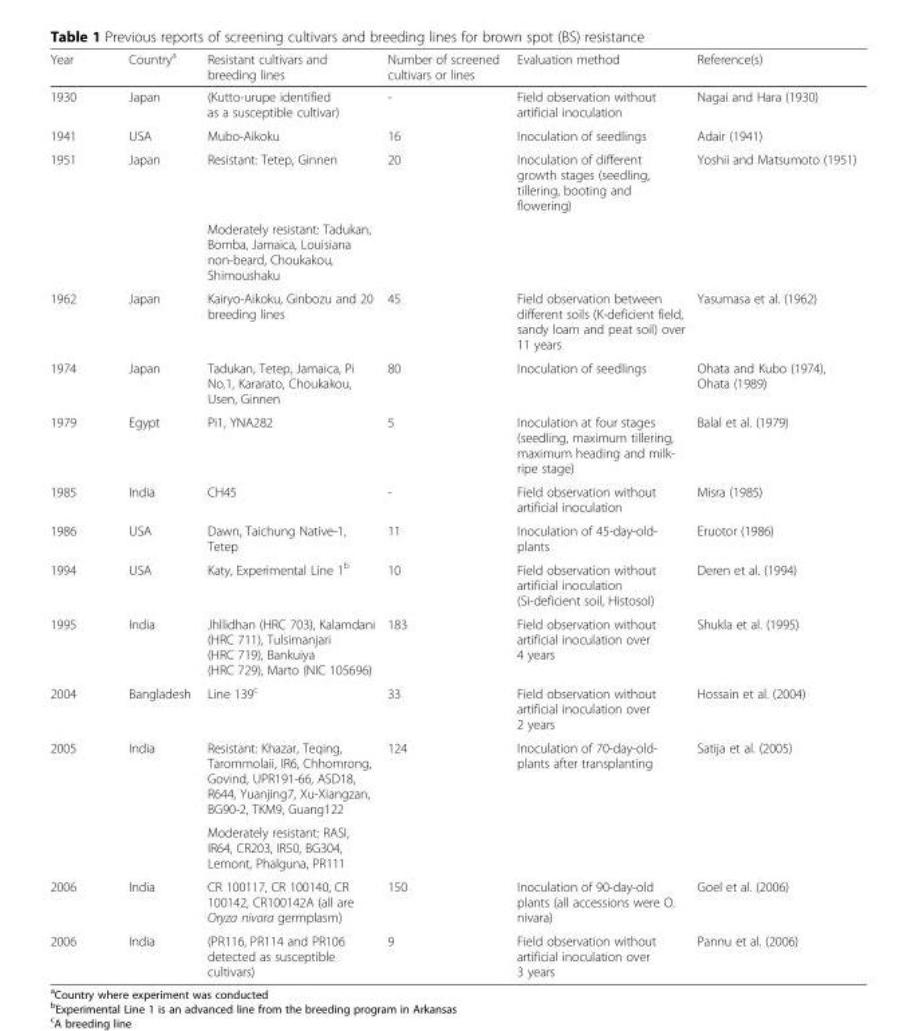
<table><thead><tr><td>Year</td><td>Country<sup>a</sup></td><td>Resistant cultivars and breeding lines</td><td>Number of screened cultivars or lines</td><td>Evaluation method</td><td>Reference(s)</td></tr></thead><tbody><tr><td>1930</td><td>Japan</td><td>(Kutto-urupe identified as a susceptible cultivar)</td><td>-</td><td>Field observation without artificial inoculation</td><td>Nagai and Hara (1930)</td></tr><tr><td>1941</td><td>USA</td><td>Mubo-Aikoku</td><td>16</td><td>Inoculation of seedlings</td><td>Adair (1941)</td></tr><tr><td rowspan="2">1951</td><td>Japan</td><td>Resistant: Tetep, Ginnen</td><td>20</td><td>Inoculation of different growth stages (seedling, tillering, booting and flowering)</td><td>Yoshii and Matsumoto (1951)</td></tr><tr><td></td><td>Moderately resistant: Tadukan, Bomba, Jamaica, Louisiana non-beard, Choukakou, Shimoushaku</td><td></td><td></td><td></td></tr><tr><td>1962</td><td>Japan</td><td>Kairyo-Aikoku, Ginbozu and 20 breeding lines</td><td>45</td><td>Field observation between different soils (K-deficient field, sandy loam and peat soil) over 11 years</td><td>Yasumasa et al. (1962)</td></tr><tr><td>1974</td><td>Japan</td><td>Tadukan, Tetep, Jamaica, Pi No.1, Kararato, Choukakou, Usen, Ginnen</td><td>80</td><td>Inoculation of seedlings</td><td>Ohata and Kubo (1974), Ohata (1989)</td></tr><tr><td>1979</td><td>Egypt</td><td>Pi1, YNA282</td><td>5</td><td>Inoculation at four stages (seedling, maximum tillering, maximum heading and milk- ripe stage)</td><td>Balal et al. (1979)</td></tr><tr><td>1985</td><td>India</td><td>CH45</td><td>-</td><td>Field observation without artificial inoculation</td><td>Misra (1985)</td></tr><tr><td>1986</td><td>USA</td><td>Dawn, Taichung Native-1, Tetep</td><td>11</td><td>Inoculation of 45-day-old- plants</td><td>Eruotor (1986)</td></tr><tr><td>1994</td><td>USA</td><td>Katy, Experimental Line 1<sup>b</sup></td><td>10</td><td>Field observation without artificial inoculation (Si-deficient soil, Histosol)</td><td>Deren et al. (1994)</td></tr><tr><td>1995</td><td>India</td><td>Jhllidhan (HRC 703), Kalamdani (HRC 711), Tulsimanjari (HRC 719), Bankuiya (HRC 729), Marto (NIC 105696)</td><td>183</td><td>Field observation without artificial inoculation over 4 years</td><td>Shukla et al. (1995)</td></tr><tr><td>2004</td><td>Bangladesh</td><td>Line 139<sup>c</sup></td><td>33</td><td>Field observation without artificial inoculation over 2 years</td><td>Hossain et al. (2004)</td></tr><tr><td rowspan="2">2005</td><td>India</td><td>Resistant: Khazar, Teqing, Tarommolaii, IR6, Chhomrong, Govind, UPR191-66, ASD18, R644, Yuanjing7, Xu-Xiangzan, BG90-2, TKM9, Guang122</td><td>124</td><td>Inoculation of 70-day-old- plants after transplanting</td><td>Satija et al. (2005)</td></tr><tr><td></td><td>Moderately resistant: RASI, IR64, CR203, IR50, BG304, Lemont, Phalguna, PR111</td><td></td><td></td><td></td></tr><tr><td>2006</td><td>India</td><td>CR 100117, CR 100140, CR 100142, CR100142A (all are Oryza nivara germplasm)</td><td>150</td><td>Inoculation of 90-day-old plants (all accessions were O. nivara)</td><td>Goel et al. (2006)</td></tr><tr><td>2006</td><td>India</td><td>(PR116, PR114 and PR106 detected as susceptible cultivars)</td><td>9</td><td>Field observation without artificial inoculation over 3 years</td><td>Pannu et al. (2006)</td></tr></tbody></table>